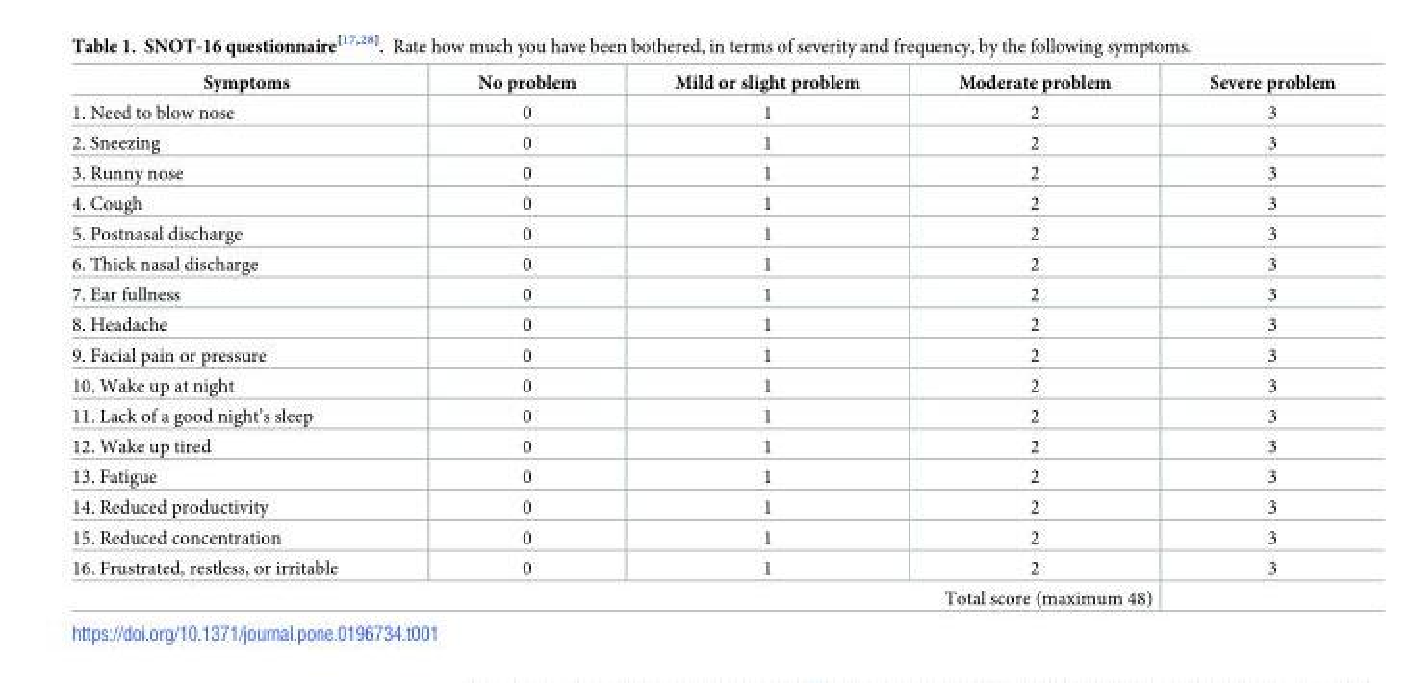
<table><thead><tr><td>Symptoms</td><td>No problem</td><td>Mild or slight problem</td><td>Moderate problem</td><td>Severe problem</td></tr></thead><tbody><tr><td>1. Need to blow nose</td><td>0</td><td>1</td><td>2</td><td>3</td></tr><tr><td>2. Sneezing</td><td>0</td><td>1</td><td>2</td><td>3</td></tr><tr><td>3. Runny nose</td><td>0</td><td>1</td><td>2</td><td>3</td></tr><tr><td>4. Cough</td><td>0</td><td>1</td><td>2</td><td>3</td></tr><tr><td>5. Postnasal discharge</td><td>0</td><td>1</td><td>2</td><td>3</td></tr><tr><td>6. Thick nasal discharge</td><td>0</td><td>1</td><td>2</td><td>3</td></tr><tr><td>7. Ear fullness</td><td>0</td><td>1</td><td>2</td><td>3</td></tr><tr><td>8. Headache</td><td>0</td><td>1</td><td>2</td><td>3</td></tr><tr><td>9. Facial pain or pressure</td><td>0</td><td>1</td><td>2</td><td>3</td></tr><tr><td>10. Wake up at night</td><td>0</td><td>1</td><td>2</td><td>3</td></tr><tr><td>11. Lack of a good night’s sleep</td><td>0</td><td>1</td><td>2</td><td>3</td></tr><tr><td>12. Wake up tired</td><td>0</td><td>1</td><td>2</td><td>3</td></tr><tr><td>13. Fatigue</td><td>0</td><td>1</td><td>2</td><td>3</td></tr><tr><td>14. Reduced productivity</td><td>0</td><td>1</td><td>2</td><td>3</td></tr><tr><td>15. Reduced concentration</td><td>0</td><td>1</td><td>2</td><td>3</td></tr><tr><td>16. Frustrated, restless, or irritable</td><td>0</td><td>1</td><td>2</td><td>3</td></tr><tr><td colspan="4">Total score (maximum 48)</td><td></td></tr></tbody></table>